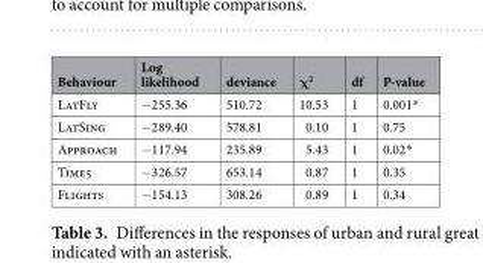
<table><thead><tr><td>Behaviour</td><td>Log likelihood</td><td>deviance</td><td>χ<sup>2</sup></td><td>df</td><td>P-value</td></tr></thead><tbody><tr><td>LatFly</td><td>−255.36</td><td>510.72</td><td>10.53</td><td>1</td><td>0.001*</td></tr><tr><td>LatSing</td><td>−289.40</td><td>578.81</td><td>0.10</td><td>1</td><td>0.75</td></tr><tr><td>Approach</td><td>−117.94</td><td>235.89</td><td>5.43</td><td>1</td><td>0.02*</td></tr><tr><td>Time5</td><td>−326.57</td><td>653.14</td><td>0.87</td><td>1</td><td>0.35</td></tr><tr><td>Flights</td><td>−154.13</td><td>308.26</td><td>0.89</td><td>1</td><td>0.34</td></tr></tbody></table>